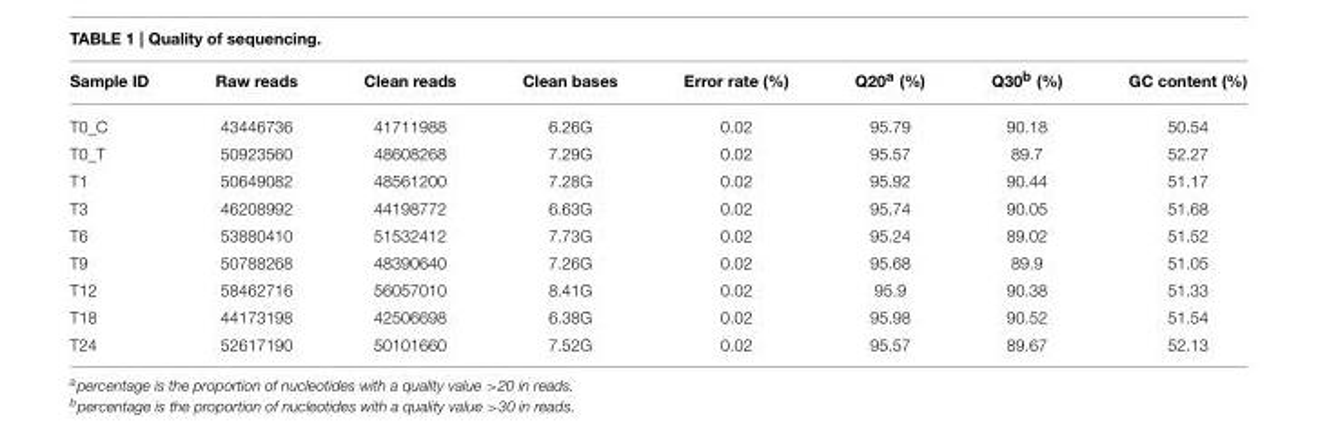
<table><thead><tr><td>Sample ID</td><td>Raw reads</td><td>Clean reads</td><td>Clean bases</td><td>Error rate (%)</td><td>Q20<sup>a</sup> (%)</td><td>Q30<sup>b</sup> (%)</td><td>GC content (%)</td></tr></thead><tbody><tr><td>T0_C</td><td>43446736</td><td>41711988</td><td>6.26G</td><td>0.02</td><td>95.79</td><td>90.18</td><td>50.54</td></tr><tr><td>T0_T</td><td>50923560</td><td>48608268</td><td>7.29G</td><td>0.02</td><td>95.57</td><td>89.7</td><td>52.27</td></tr><tr><td>T1</td><td>50649082</td><td>48561200</td><td>7.28G</td><td>0.02</td><td>95.92</td><td>90.44</td><td>51.17</td></tr><tr><td>T3</td><td>46208992</td><td>44198772</td><td>6.63G</td><td>0.02</td><td>95.74</td><td>90.05</td><td>51.68</td></tr><tr><td>T6</td><td>53880410</td><td>51532412</td><td>7.73G</td><td>0.02</td><td>95.24</td><td>89.02</td><td>51.52</td></tr><tr><td>T9</td><td>50788268</td><td>48390640</td><td>7.26G</td><td>0.02</td><td>95.68</td><td>89.9</td><td>51.05</td></tr><tr><td>T12</td><td>58462716</td><td>56057010</td><td>8.41G</td><td>0.02</td><td>95.9</td><td>90.38</td><td>51.33</td></tr><tr><td>T18</td><td>44173198</td><td>42506698</td><td>6.38G</td><td>0.02</td><td>95.98</td><td>90.52</td><td>51.54</td></tr><tr><td>T24</td><td>52617190</td><td>50101660</td><td>7.52G</td><td>0.02</td><td>95.57</td><td>89.67</td><td>52.13</td></tr></tbody></table>